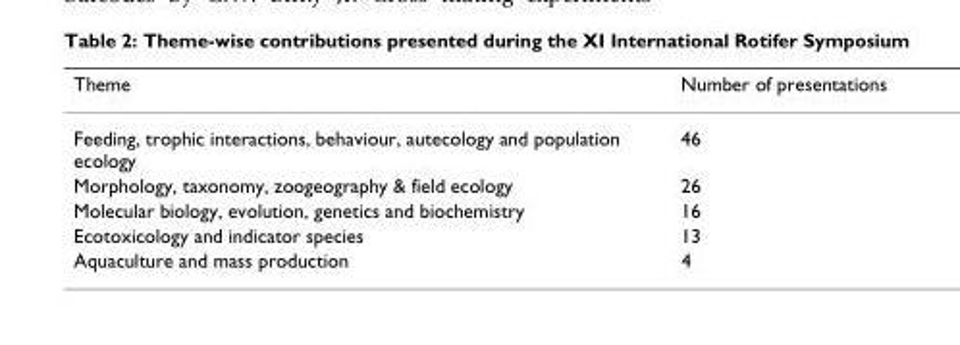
<table><thead><tr><td>Theme</td><td>Number of presentations</td></tr></thead><tbody><tr><td>Feeding, trophic interactions, behaviour, autecology and population ecology</td><td>46</td></tr><tr><td>Morphology, taxonomy, zoogeography &amp; field ecology</td><td>26</td></tr><tr><td>Molecular biology, evolution, genetics and biochemistry</td><td>16</td></tr><tr><td>Ecotoxicology and indicator species</td><td>13</td></tr><tr><td>Aquaculture and mass production</td><td>4</td></tr></tbody></table>